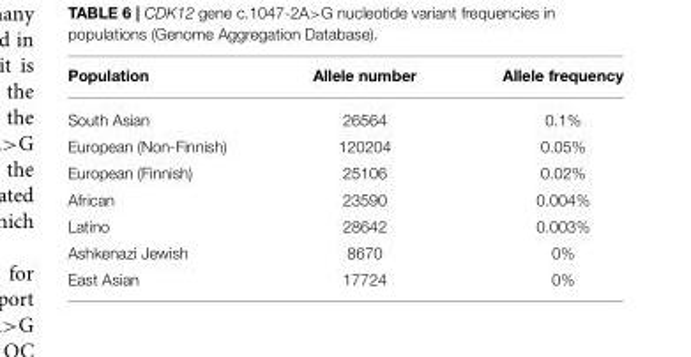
<table><thead><tr><td>Population</td><td>Allele number</td><td>Allele frequency</td></tr></thead><tbody><tr><td>South Asian</td><td>26564</td><td>0.1%</td></tr><tr><td>European (Non-Finnish)</td><td>120204</td><td>0.05%</td></tr><tr><td>European (Finnish)</td><td>25106</td><td>0.02%</td></tr><tr><td>African</td><td>23590</td><td>0.004%</td></tr><tr><td>Latino</td><td>28642</td><td>0.003%</td></tr><tr><td>Ashkenazi Jewish</td><td>8670</td><td>0%</td></tr><tr><td>East Asian</td><td>17724</td><td>0%</td></tr></tbody></table>